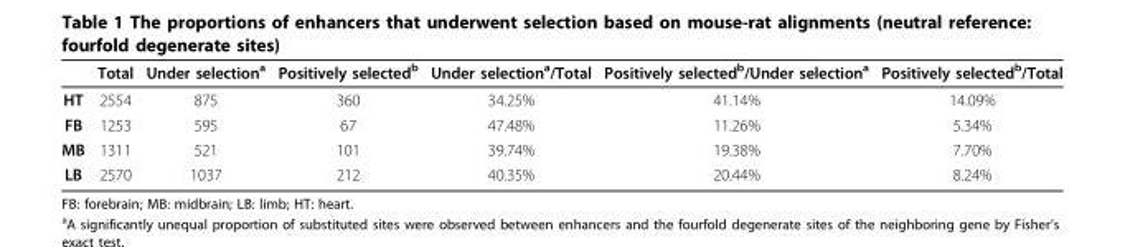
<table><thead><tr><td></td><td>Total</td><td>Under selection<sup>a</sup></td><td>Positively selected<sup>b</sup></td><td>Under selection<sup>a</sup>/Total</td><td>Positively selected<sup>b</sup>/Under selection<sup>a</sup></td><td>Positively selected<sup>b</sup>/Total</td></tr></thead><tbody><tr><td>HT</td><td>2554</td><td>875</td><td>360</td><td>34.25%</td><td>41.14%</td><td>14.09%</td></tr><tr><td>FB</td><td>1253</td><td>595</td><td>67</td><td>47.48%</td><td>11.26%</td><td>5.34%</td></tr><tr><td>MB</td><td>1311</td><td>521</td><td>101</td><td>39.74%</td><td>19.38%</td><td>7.70%</td></tr><tr><td>LB</td><td>2570</td><td>1037</td><td>212</td><td>40.35%</td><td>20.44%</td><td>8.24%</td></tr></tbody></table>